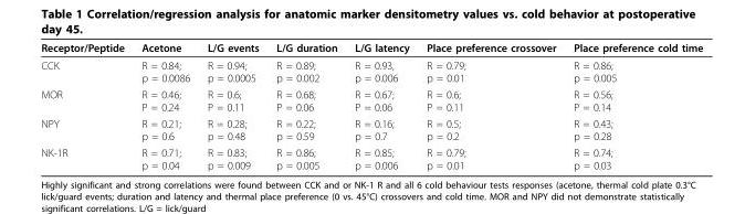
<table><thead><tr><td>Receptor/Peptide</td><td>Acetone</td><td>L/G events</td><td>L/G duration</td><td>L/G latency</td><td>Place preference crossover</td><td>Place preference cold time</td></tr></thead><tbody><tr><td>CCK</td><td>R = 0.84; p = 0.0086</td><td>R = 0.94; p = 0.0005</td><td>R = 0.89; p = 0.002</td><td>R = 0.93, p = 0.006</td><td>R = 0.79; p = 0.01</td><td>R = 0.86; p = 0.005</td></tr><tr><td>MOR</td><td>R = 0.46; P = 0.24</td><td>R = 0.6; P = 0.11</td><td>R = 0.68; P = 0.06</td><td>R = 0.67; P = 0.06</td><td>R = 0.6; P = 0.11</td><td>R = 0.56; P = 0.14</td></tr><tr><td>NPY</td><td>R = 0.21; p = 0.6</td><td>R = 0.28; p = 0.48</td><td>R = 0.22; p = 0.59</td><td>R = 0.16; p = 0.7</td><td>R = 0.5; p = 0.2</td><td>R = 0.43; p = 0.28</td></tr><tr><td>NK-1R</td><td>R = 0.71; p = 0.04</td><td>R = 0.83; p = 0.009</td><td>R = 0.86; p = 0.005</td><td>R = 0.85; p = 0.006</td><td>R = 0.79; p = 0.01</td><td>R = 0.74; p = 0.03</td></tr></tbody></table>